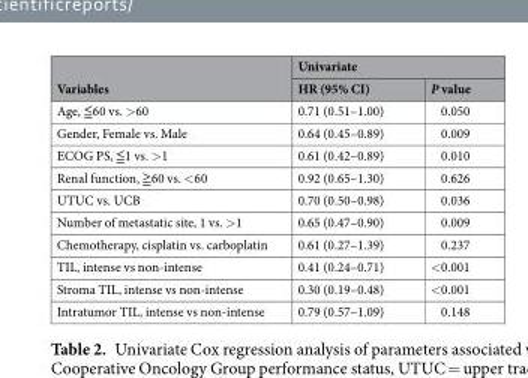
<table><thead><tr><td rowspan="2">Variables</td><td colspan="2">Univariate</td></tr><tr><td>HR (95% CI)</td><td>P value</td></tr></thead><tbody><tr><td>Age, ≦60 vs. &gt;60</td><td>0.71 (0.51–1.00)</td><td>0.050</td></tr><tr><td>Gender, Female vs. Male</td><td>0.64 (0.45–0.89)</td><td>0.009</td></tr><tr><td>ECOG PS, ≦1 vs. &gt;1</td><td>0.61 (0.42–0.89)</td><td>0.010</td></tr><tr><td>Renal function, ≧60 vs. &lt;60</td><td>0.92 (0.65–1.30)</td><td>0.626</td></tr><tr><td>UTUC vs. UCB</td><td>0.70 (0.50–0.98)</td><td>0.036</td></tr><tr><td>Number of metastatic site, 1 vs. &gt;1</td><td>0.65 (0.47–0.90)</td><td>0.009</td></tr><tr><td>Chemotherapy, cisplatin vs. carboplatin</td><td>0.61 (0.27–1.39)</td><td>0.237</td></tr><tr><td>TIL, intense vs non-intense</td><td>0.41 (0.24–0.71)</td><td>&lt;0.001</td></tr><tr><td>Stroma TIL, intense vs non-intense</td><td>0.30 (0.19–0.48)</td><td>&lt;0.001</td></tr><tr><td>Intratumor TIL, intense vs non-intense</td><td>0.79 (0.57–1.09)</td><td>0.148</td></tr></tbody></table>